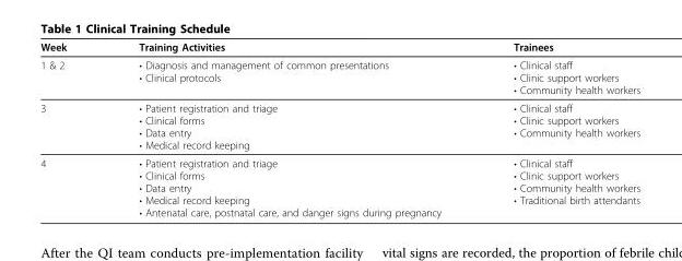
<table><thead><tr><td>Week</td><td>Training Activities</td><td>Trainees</td></tr></thead><tbody><tr><td>1 &amp; 2</td><td>• Diagnosis and management of common presentations • Clinical protocols</td><td>• Clinical staff • Clinic support workers • Community health workers</td></tr><tr><td>3</td><td>• Patient registration and triage • Clinical forms • Data entry • Medical record keeping</td><td>• Clinical staff • Clinic support workers • Community health workers</td></tr><tr><td>4</td><td>• Patient registration and triage • Clinical forms • Data entry • Medical record keeping • Antenatal care, postnatal care, and danger signs during pregnancy</td><td>• Clinical staff • Clinic support workers • Community health workers • Traditional birth attendants</td></tr></tbody></table>